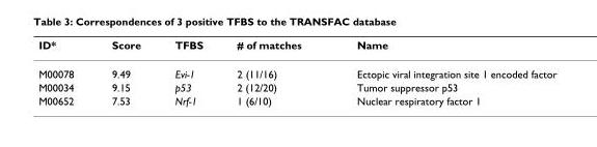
<table><thead><tr><td>ID*</td><td>Score</td><td>TFBS</td><td># of matches</td><td>Name</td></tr></thead><tbody><tr><td>M00078</td><td>9.49</td><td>Evi-1</td><td>2 (11/16)</td><td>Ectopic viral integration site 1 encoded factor</td></tr><tr><td>M00034</td><td>9.15</td><td>p53</td><td>2 (12/20)</td><td>Tumor suppressor p53</td></tr><tr><td>M00652</td><td>7.53</td><td>Nrf-1</td><td>1 (6/10)</td><td>Nuclear respiratory factor 1</td></tr></tbody></table>